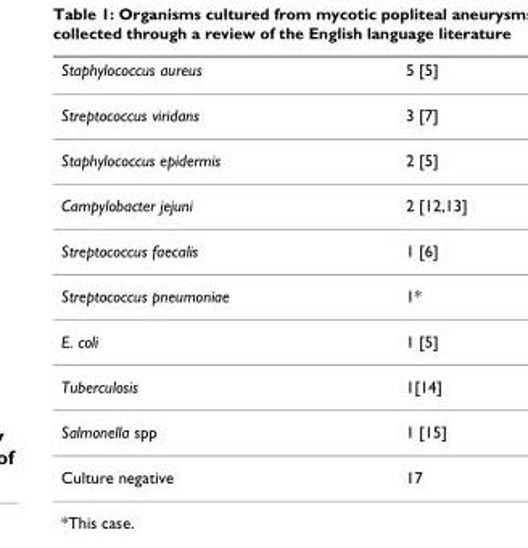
<table><thead><tr><td>Staphylococcus aureus</td><td>5 [5]</td></tr></thead><tbody><tr><td>Streptococcus viridans</td><td>3 [7]</td></tr><tr><td>Staphylococcus epidermis</td><td>2 [5]</td></tr><tr><td>Campylobacter jejuni</td><td>2 [12,13]</td></tr><tr><td>Streptococcus faecalis</td><td>1 [6]</td></tr><tr><td>Streptococcus pneumoniae</td><td>1*</td></tr><tr><td>E. coli</td><td>1 [5]</td></tr><tr><td>Tuberculosis</td><td>1[14]</td></tr><tr><td>Salmonella spp</td><td>1 [15]</td></tr><tr><td>Culture negative</td><td>17</td></tr></tbody></table>